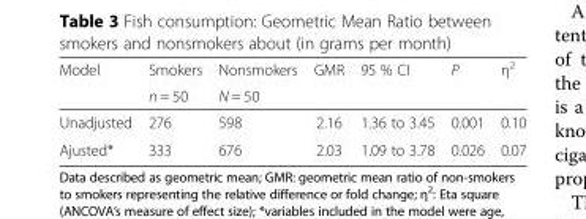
<table><thead><tr><td rowspan="2">Model</td><td rowspan="2">Smokers n = 50</td><td rowspan="2">Nonsmokers N = 50</td><td rowspan="2">GMR</td><td rowspan="2">95 % CI</td><td rowspan="2">P</td><td rowspan="2">η<sup>2</sup></td></tr><tr></tr></thead><tbody><tr><td>Unadjusted</td><td>276</td><td>598</td><td>2.16</td><td>1.36 to 3.45</td><td>0.001</td><td>0.10</td></tr><tr><td>Ajusted*</td><td>333</td><td>676</td><td>2.03</td><td>1.09 to 3.78</td><td>0.026</td><td>0.07</td></tr></tbody></table>